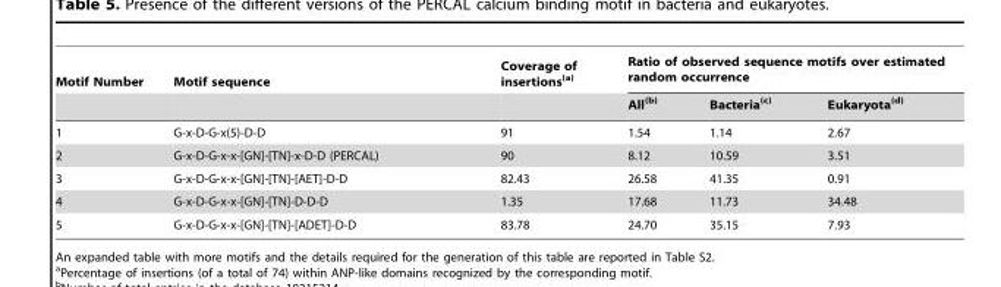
<table><thead><tr><td rowspan="2">Motif Number</td><td rowspan="2">Motif sequence</td><td rowspan="2">Coverage of insertions<sup>(a)</sup></td><td colspan="3">Ratio of observed sequence motifs over estimated random occurrence</td></tr><tr><td>All<sup>(b)</sup></td><td>Bacteria<sup>(c)</sup></td><td>Eukaryota<sup>(d)</sup></td></tr></thead><tbody><tr><td>1</td><td>G-x-D-G-x(5)-D-D</td><td>91</td><td>1.54</td><td>1.14</td><td>2.67</td></tr><tr><td>2</td><td>G-x-D-G-x-x-[GN]-[TN]-x-D-D (PERCAL)</td><td>90</td><td>8.12</td><td>10.59</td><td>3.51</td></tr><tr><td>3</td><td>G-x-D-G-x-x-[GN]-[TN]-[AET]-D-D</td><td>82.43</td><td>26.58</td><td>41.35</td><td>0.91</td></tr><tr><td>4</td><td>G-x-D-G-x-x-[GN]-[TN]-D-D-D</td><td>1.35</td><td>17.68</td><td>11.73</td><td>34.48</td></tr><tr><td>5</td><td>G-x-D-G-x-x-[GN]-[TN]-[ADET]-D-D</td><td>83.78</td><td>24.70</td><td>35.15</td><td>7.93</td></tr></tbody></table>